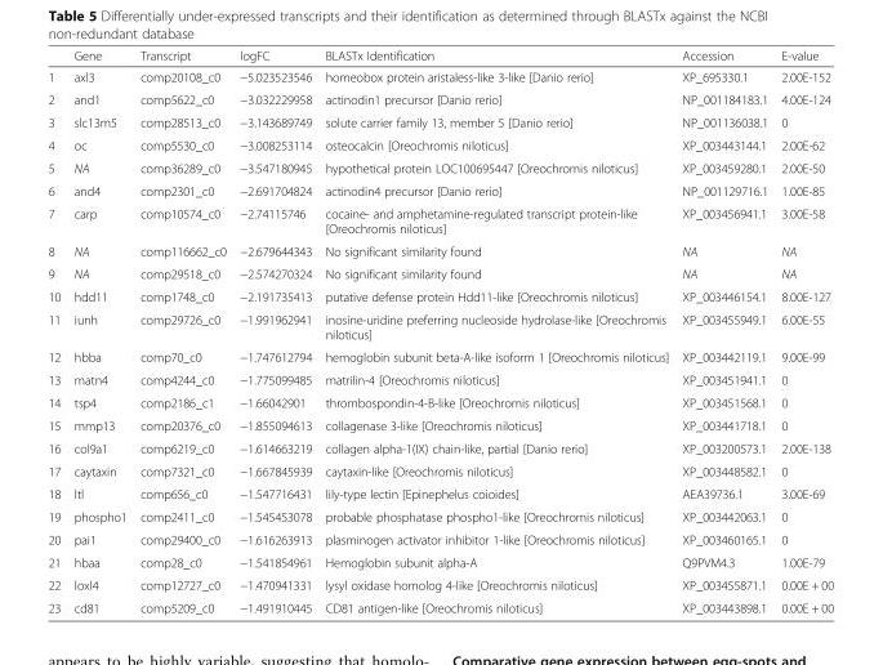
<table><thead><tr><td></td><td>Gene</td><td>Transcript</td><td>logFC</td><td>BLASTx Identification</td><td>Accession</td><td>E-value</td></tr></thead><tbody><tr><td>1</td><td>axl3</td><td>comp20108_c0</td><td>−5.023523546</td><td>homeobox protein aristaless-like 3-like [Danio rerio]</td><td>XP_695330.1</td><td>2.00E-152</td></tr><tr><td>2</td><td>and1</td><td>comp5622_c0</td><td>−3.032229958</td><td>actinodin1 precursor [Danio rerio]</td><td>NP_001184183.1</td><td>4.00E-124</td></tr><tr><td>3</td><td>slc13m5</td><td>comp28513_c0</td><td>−3.143689749</td><td>solute carrier family 13, member 5 [Danio rerio]</td><td>NP_001136038.1</td><td>0</td></tr><tr><td>4</td><td>oc</td><td>comp5530_c0</td><td>−3.008253114</td><td>osteocalcin [Oreochromis niloticus]</td><td>XP_003443144.1</td><td>2.00E-62</td></tr><tr><td>5</td><td>NA</td><td>comp36289_c0</td><td>−3.547180945</td><td>hypothetical protein LOC100695447 [Oreochromis niloticus]</td><td>XP_003459280.1</td><td>2.00E-50</td></tr><tr><td>6</td><td>and4</td><td>comp2301_c0</td><td>−2.691704824</td><td>actinodin4 precursor [Danio rerio]</td><td>NP_001129716.1</td><td>1.00E-85</td></tr><tr><td>7</td><td>carp</td><td>comp10574_c0</td><td>−2.74115746</td><td>cocaine- and amphetamine-regulated transcript protein-like [Oreochromis niloticus]</td><td>XP_003456941.1</td><td>3.00E-58</td></tr><tr><td>8</td><td>NA</td><td>comp116662_c0</td><td>−2.679644343</td><td>No significant similarity found</td><td>NA</td><td>NA</td></tr><tr><td>9</td><td>NA</td><td>comp29518_c0</td><td>−2.574270324</td><td>No significant similarity found</td><td>NA</td><td>NA</td></tr><tr><td>10</td><td>hdd11</td><td>comp1748_c0</td><td>−2.191735413</td><td>putative defense protein Hdd11-like [Oreochromis niloticus]</td><td>XP_003446154.1</td><td>8.00E-127</td></tr><tr><td>11</td><td>iunh</td><td>comp29726_c0</td><td>−1.991962941</td><td>inosine-uridine preferring nucleoside hydrolase-like [Oreochromis niloticus]</td><td>XP_003455949.1</td><td>6.00E-55</td></tr><tr><td>12</td><td>hbba</td><td>comp70_c0</td><td>−1.747612794</td><td>hemoglobin subunit beta-A-like isoform 1 [Oreochromis niloticus]</td><td>XP_003442119.1</td><td>9.00E-99</td></tr><tr><td>13</td><td>matn4</td><td>comp4244_c0</td><td>−1.775099485</td><td>matrilin-4 [Oreochromis niloticus]</td><td>XP_003451941.1</td><td>0</td></tr><tr><td>14</td><td>tsp4</td><td>comp2186_c1</td><td>−1.66042901</td><td>thrombospondin-4-B-like [Oreochromis niloticus]</td><td>XP_003451568.1</td><td>0</td></tr><tr><td>15</td><td>mmp13</td><td>comp20376_c0</td><td>−1.855094613</td><td>collagenase 3-like [Oreochromis niloticus]</td><td>XP_003441718.1</td><td>0</td></tr><tr><td>16</td><td>col9a1</td><td>comp6219_c0</td><td>−1.614663219</td><td>collagen alpha-1(IX) chain-like, partial [Danio rerio]</td><td>XP_003200573.1</td><td>2.00E-138</td></tr><tr><td>17</td><td>caytaxin</td><td>comp7321_c0</td><td>−1.667845939</td><td>caytaxin-like [Oreochromis niloticus]</td><td>XP_003448582.1</td><td>0</td></tr><tr><td>18</td><td>ltl</td><td>comp656_c0</td><td>−1.547716431</td><td>lily-type lectin [Epinephelus coioides]</td><td>AEA39736.1</td><td>3.00E-69</td></tr><tr><td>19</td><td>phospho1</td><td>comp2411_c0</td><td>−1.545453078</td><td>probable phosphatase phospho1-like [Oreochromis niloticus]</td><td>XP_003442063.1</td><td>0</td></tr><tr><td>20</td><td>pai1</td><td>comp29400_c0</td><td>−1.616263913</td><td>plasminogen activator inhibitor 1-like [Oreochromis niloticus]</td><td>XP_003460165.1</td><td>0</td></tr><tr><td>21</td><td>hbaa</td><td>comp28_c0</td><td>−1.541854961</td><td>Hemoglobin subunit alpha-A</td><td>Q9PVM4.3</td><td>1.00E-79</td></tr><tr><td>22</td><td>loxl4</td><td>comp12727_c0</td><td>−1.470941331</td><td>lysyl oxidase homolog 4-like [Oreochromis niloticus]</td><td>XP_003455871.1</td><td>0.00E + 00</td></tr><tr><td>23</td><td>cd81</td><td>comp5209_c0</td><td>−1.491910445</td><td>CD81 antigen-like [Oreochromis niloticus]</td><td>XP_003443898.1</td><td>0.00E + 00</td></tr></tbody></table>